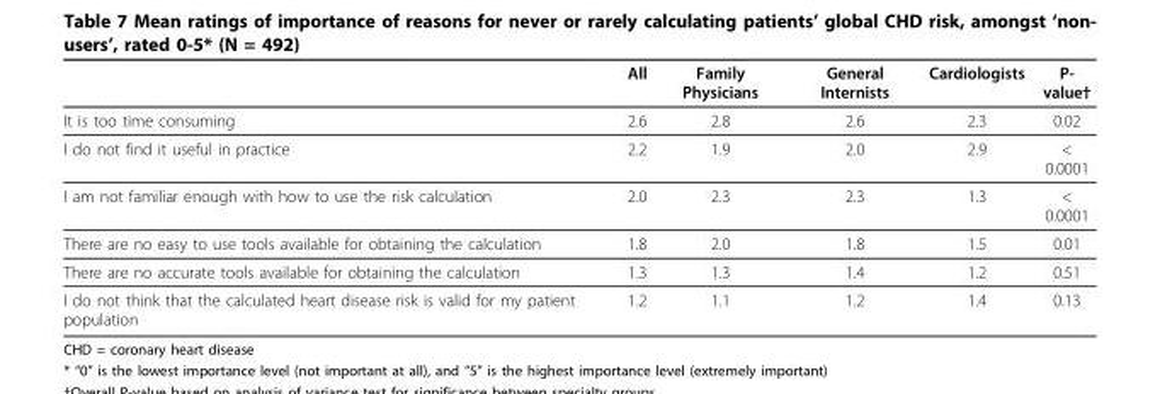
<table><thead><tr><td></td><td>All</td><td>Family Physicians</td><td>General Internists</td><td>Cardiologists</td><td>P- value†</td></tr></thead><tbody><tr><td>It is too time consuming</td><td>2.6</td><td>2.8</td><td>2.6</td><td>2.3</td><td>0.02</td></tr><tr><td>I do not find it useful in practice</td><td>2.2</td><td>1.9</td><td>2.0</td><td>2.9</td><td>&lt; 0.0001</td></tr><tr><td>I am not familiar enough with how to use the risk calculation</td><td>2.0</td><td>2.3</td><td>2.3</td><td>1.3</td><td>&lt; 0.0001</td></tr><tr><td>There are no easy to use tools available for obtaining the calculation</td><td>1.8</td><td>2.0</td><td>1.8</td><td>1.5</td><td>0.01</td></tr><tr><td>There are no accurate tools available for obtaining the calculation</td><td>1.3</td><td>1.3</td><td>1.4</td><td>1.2</td><td>0.51</td></tr><tr><td>I do not think that the calculated heart disease risk is valid for my patient population</td><td>1.2</td><td>1.1</td><td>1.2</td><td>1.4</td><td>0.13</td></tr></tbody></table>